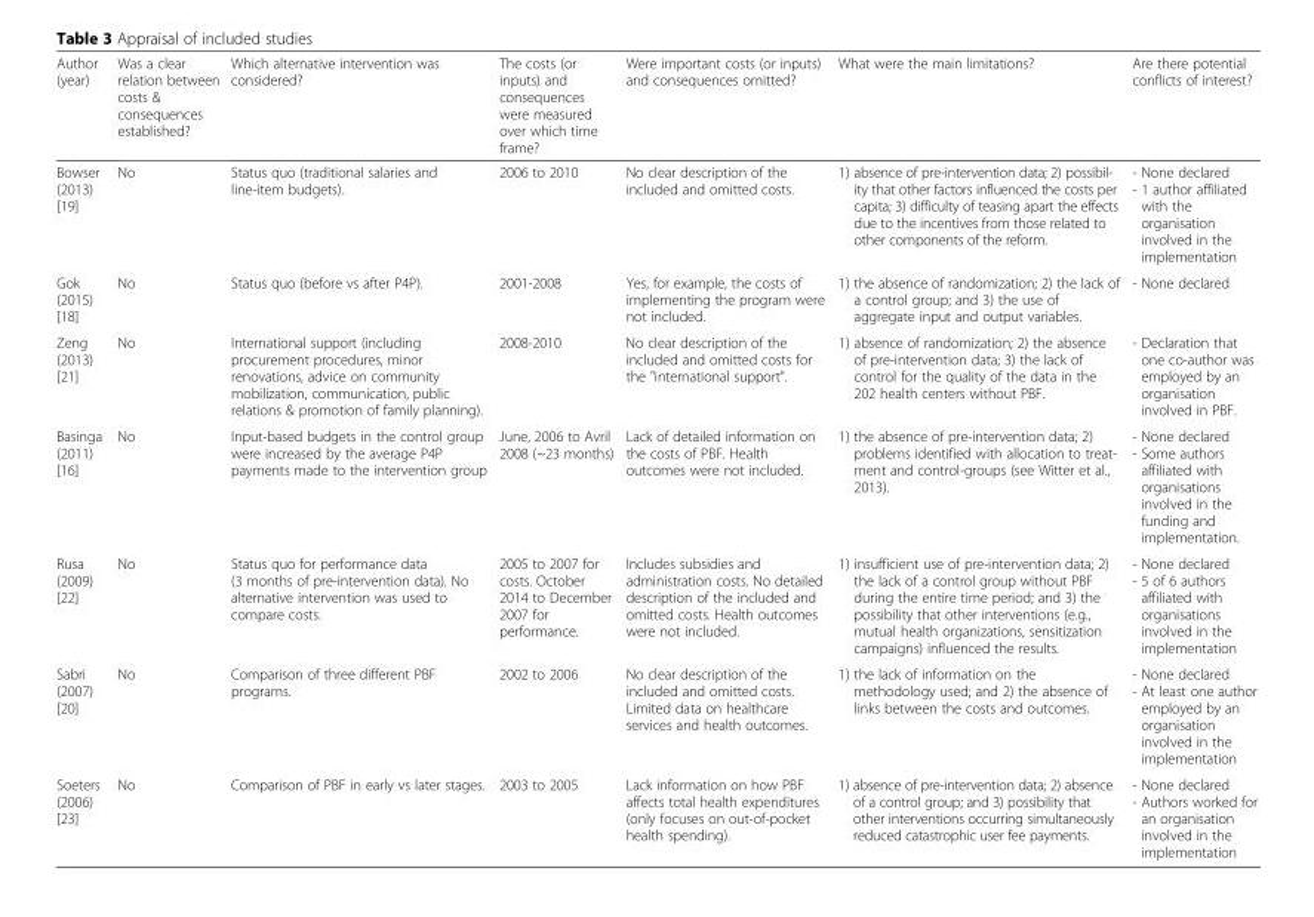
<table><thead><tr><td>Author (year)</td><td>Was a clear relation between costs &amp; consequences established?</td><td>Which alternative intervention was considered?</td><td>The costs (or inputs) and consequences were measured over which time frame?</td><td>Were important costs (or inputs) and consequences omitted?</td><td>What were the main limitations?</td><td>Are there potential conflicts of interest?</td></tr></thead><tbody><tr><td>Bowser (2013) [19]</td><td>No</td><td>Status quo (traditional salaries and line-item budgets).</td><td>2006 to 2010</td><td>No clear description of the included and omitted costs.</td><td>1) absence of pre-intervention data; 2) possibil- ity that other factors influenced the costs per capita; 3) difficulty of teasing apart the effects due to the incentives from those related to other components of the reform.</td><td>- None declared - 1 author affiliated with the organisation involved in the implementation</td></tr><tr><td>Gok (2015) [18]</td><td>No</td><td>Status quo (before vs after P4P).</td><td>2001-2008</td><td>Yes, for example, the costs of implementing the program were not included.</td><td>1) the absence of randomization; 2) the lack of a control group; and 3) the use of aggregate input and output variables.</td><td>- None declared</td></tr><tr><td>Zeng (2013) [21]</td><td>No</td><td>International support (including procurement procedures, minor renovations, advice on community mobilization, communication, public relations &amp; promotion of family planning).</td><td>2008-2010</td><td>No clear description of the included and omitted costs for the &quot;international support&quot;.</td><td>1) absence of randomization; 2) the absence of pre-intervention data; 3) the lack of control for the quality of the data in the 202 health centers without PBF.</td><td>- Declaration that one co-author was employed by an organisation involved in PBF.</td></tr><tr><td>Basinga (2011) [16]</td><td>No</td><td>Input-based budgets in the control group were increased by the average P4P payments made to the intervention group</td><td>June, 2006 to Avril 2008 (~23 months)</td><td>Lack of detailed information on the costs of PBF. Health outcomes were not included.</td><td>1) the absence of pre-intervention data; 2) problems identified with allocation to treat- ment and control-groups (see Witter et al., 2013).</td><td>- None declared - Some authors affiliated with organisations involved in the funding and implementation.</td></tr><tr><td>Rusa (2009) [22]</td><td>No</td><td>Status quo for performance data (3 months of pre-intervention data). No alternative intervention was used to compare costs.</td><td>2005 to 2007 for costs. October 2014 to December 2007 for performance.</td><td>Includes subsidies and administration costs. No detailed description of the included and omitted costs. Health outcomes were not included.</td><td>1) insufficient use of pre-intervention data; 2) the lack of a control group without PBF during the entire time period; and 3) the possibility that other interventions (e.g., mutual health organizations, sensitization campaigns) influenced the results.</td><td>- None declared - 5 of 6 authors affiliated with organisations involved in the implementation</td></tr><tr><td>Sabri (2007) [20]</td><td>No</td><td>Comparison of three different PBF programs.</td><td>2002 to 2006</td><td>No clear description of the included and omitted costs. Limited data on healthcare services and health outcomes.</td><td>1) the lack of information on the methodology used; and 2) the absence of links between the costs and outcomes.</td><td>- None declared - At least one author employed by an organisation involved in the implementation</td></tr><tr><td>Soeters (2006) [23]</td><td>No</td><td>Comparison of PBF in early vs later stages.</td><td>2003 to 2005</td><td>Lack information on how PBF affects total health expenditures (only focuses on out-of-pocket health spending).</td><td>1) absence of pre-intervention data; 2) absence of a control group; and 3) possibility that other interventions occurring simultaneously reduced catastrophic user fee payments.</td><td>- None declared - Authors worked for an organisation involved in the implementation</td></tr></tbody></table>